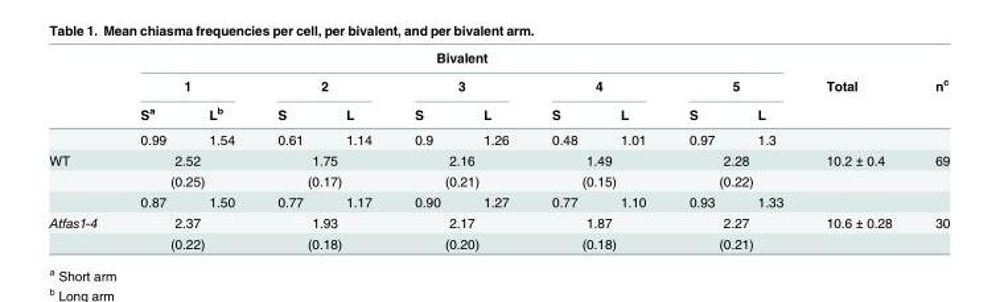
<table><thead><tr><td rowspan="3"></td><td colspan="10">Bivalent</td><td rowspan="3">Total</td><td rowspan="3">n<sup>c</sup></td></tr><tr><td colspan="2">1</td><td colspan="2">2</td><td colspan="2">3</td><td colspan="2">4</td><td colspan="2">5</td></tr><tr><td>S<sup>a</sup></td><td>L<sup>b</sup></td><td>S</td><td>L</td><td>S</td><td>L</td><td>S</td><td>L</td><td>S</td><td>L</td></tr></thead><tbody><tr><td></td><td>0.99</td><td>1.54</td><td>0.61</td><td>1.14</td><td>0.9</td><td>1.26</td><td>0.48</td><td>1.01</td><td>0.97</td><td>1.3</td><td></td><td></td></tr><tr><td rowspan="3">WT</td><td colspan="2">2.52</td><td colspan="2">1.75</td><td colspan="2">2.16</td><td colspan="2">1.49</td><td colspan="2">2.28</td><td>10.2 ± 0.4</td><td>69</td></tr><tr><td colspan="2">(0.25)</td><td colspan="2">(0.17)</td><td colspan="2">(0.21)</td><td colspan="2">(0.15)</td><td colspan="2">(0.22)</td><td></td><td></td></tr><tr><td>0.87</td><td>1.50</td><td>0.77</td><td>1.17</td><td>0.90</td><td>1.27</td><td>0.77</td><td>1.10</td><td>0.93</td><td>1.33</td><td></td><td></td></tr><tr><td rowspan="2">Atfas1-4</td><td colspan="2">2.37</td><td colspan="2">1.93</td><td colspan="2">2.17</td><td colspan="2">1.87</td><td colspan="2">2.27</td><td>10.6 ± 0.28</td><td>30</td></tr><tr><td colspan="2">(0.22)</td><td colspan="2">(0.18)</td><td colspan="2">(0.20)</td><td colspan="2">(0.18)</td><td colspan="2">(0.21)</td><td></td><td></td></tr></tbody></table>